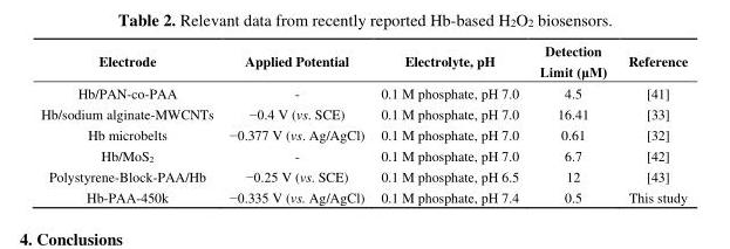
<table><thead><tr><td>Electrode</td><td>Applied Potential</td><td>Electrolyte, pH</td><td>Detection Limit (μM)</td><td>Reference</td></tr></thead><tbody><tr><td>Hb/PAN-co-PAA</td><td>-</td><td>0.1 M phosphate, pH 7.0</td><td>4.5</td><td>[41]</td></tr><tr><td>Hb/sodium alginate-MWCNTs</td><td>−0.4 V (vs. SCE)</td><td>0.1 M phosphate, pH 7.0</td><td>16.41</td><td>[33]</td></tr><tr><td>Hb microbelts</td><td>−0.377 V (vs. Ag/AgCl)</td><td>0.1 M phosphate, pH 7.0</td><td>0.61</td><td>[32]</td></tr><tr><td>Hb/MoS<sub>2</sub></td><td>-</td><td>0.1 M phosphate, pH 7.0</td><td>6.7</td><td>[42]</td></tr><tr><td>Polystyrene-Block-PAA/Hb</td><td>−0.25 V (vs. SCE)</td><td>0.1 M phosphate, pH 6.5</td><td>12</td><td>[43]</td></tr><tr><td>Hb-PAA-450k</td><td>−0.335 V (vs. Ag/AgCl)</td><td>0.1 M phosphate, pH 7.4</td><td>0.5</td><td>This study</td></tr></tbody></table>